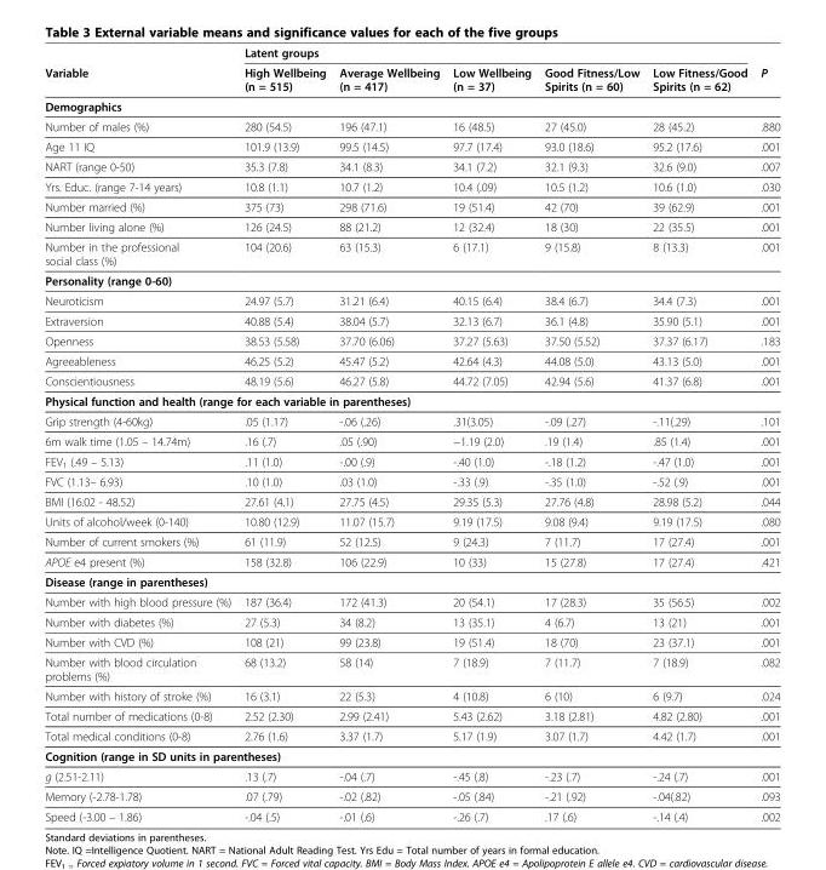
<table><thead><tr><td rowspan="2">Variable</td><td colspan="5">Latent groups</td><td rowspan="2">P</td></tr><tr><td>High Wellbeing (n = 515)</td><td>Average Wellbeing (n = 417)</td><td>Low Wellbeing (n = 37)</td><td>Good Fitness/Low Spirits (n = 60)</td><td>Low Fitness/Good Spirits (n = 62)</td></tr></thead><tbody><tr><td colspan="7">Demographics</td></tr><tr><td>Number of males (%)</td><td>280 (54.5)</td><td>196 (47.1)</td><td>16 (48.5)</td><td>27 (45.0)</td><td>28 (45.2)</td><td>.880</td></tr><tr><td>Age 11 IQ</td><td>101.9 (13.9)</td><td>99.5 (14.5)</td><td>97.7 (17.4)</td><td>93.0 (18.6)</td><td>95.2 (17.6)</td><td>.001</td></tr><tr><td>NART (range 0-50)</td><td>35.3 (7.8)</td><td>34.1 (8.3)</td><td>34.1 (7.2)</td><td>32.1 (9.3)</td><td>32.6 (9.0)</td><td>.007</td></tr><tr><td>Yrs. Educ. (range 7-14 years)</td><td>10.8 (1.1)</td><td>10.7 (1.2)</td><td>10.4 (.09)</td><td>10.5 (1.2)</td><td>10.6 (1.0)</td><td>.030</td></tr><tr><td>Number married (%)</td><td>375 (73)</td><td>298 (71.6)</td><td>19 (51.4)</td><td>42 (70)</td><td>39 (62.9)</td><td>.001</td></tr><tr><td>Number living alone (%)</td><td>126 (24.5)</td><td>88 (21.2)</td><td>12 (32.4)</td><td>18 (30)</td><td>22 (35.5)</td><td>.001</td></tr><tr><td>Number in the professional social class (%)</td><td>104 (20.6)</td><td>63 (15.3)</td><td>6 (17.1)</td><td>9 (15.8)</td><td>8 (13.3)</td><td>.001</td></tr><tr><td colspan="7">Personality (range 0-60)</td></tr><tr><td>Neuroticism</td><td>24.97 (5.7)</td><td>31.21 (6.4)</td><td>40.15 (6.4)</td><td>38.4 (6.7)</td><td>34.4 (7.3)</td><td>.001</td></tr><tr><td>Extraversion</td><td>40.88 (5.4)</td><td>38.04 (5.7)</td><td>32.13 (6.7)</td><td>36.1 (4.8)</td><td>35.90 (5.1)</td><td>.001</td></tr><tr><td>Openness</td><td>38.53 (5.58)</td><td>37.70 (6.06)</td><td>37.27 (5.63)</td><td>37.50 (5.52)</td><td>37.37 (6.17)</td><td>.183</td></tr><tr><td>Agreeableness</td><td>46.25 (5.2)</td><td>45.47 (5.2)</td><td>42.64 (4.3)</td><td>44.08 (5.0)</td><td>43.13 (5.0)</td><td>.001</td></tr><tr><td>Conscientiousness</td><td>48.19 (5.6)</td><td>46.27 (5.8)</td><td>44.72 (7.05)</td><td>42.94 (5.6)</td><td>41.37 (6.8)</td><td>.001</td></tr><tr><td colspan="7">Physical function and health (range for each variable in parentheses)</td></tr><tr><td>Grip strength (4-60kg)</td><td>.05 (1.17)</td><td>-.06 (.26)</td><td>.31(3.05)</td><td>-.09 (.27)</td><td>-.11(.29)</td><td>.101</td></tr><tr><td>6m walk time (1.05 – 14.74m)</td><td>.16 (.7)</td><td>.05 (.90)</td><td>−1.19 (2.0)</td><td>.19 (1.4)</td><td>.85 (1.4)</td><td>.001</td></tr><tr><td>FEV<sub>1</sub> (.49 – 5.13)</td><td>.11 (1.0)</td><td>-.00 (.9)</td><td>-.40 (1.0)</td><td>-.18 (1.2)</td><td>-.47 (1.0)</td><td>.001</td></tr><tr><td>FVC (1.13– 6.93)</td><td>.10 (1.0)</td><td>.03 (1.0)</td><td>-.33 (.9)</td><td>-.35 (1.0)</td><td>-.52 (.9)</td><td>.001</td></tr><tr><td>BMI (16.02 - 48.52)</td><td>27.61 (4.1)</td><td>27.75 (4.5)</td><td>29.35 (5.3)</td><td>27.76 (4.8)</td><td>28.98 (5.2)</td><td>.044</td></tr><tr><td>Units of alcohol/week (0-140)</td><td>10.80 (12.9)</td><td>11.07 (15.7)</td><td>9.19 (17.5)</td><td>9.08 (9.4)</td><td>9.19 (17.5)</td><td>.080</td></tr><tr><td>Number of current smokers (%)</td><td>61 (11.9)</td><td>52 (12.5)</td><td>9 (24.3)</td><td>7 (11.7)</td><td>17 (27.4)</td><td>.001</td></tr><tr><td>APOE e4 present (%)</td><td>158 (32.8)</td><td>106 (22.9)</td><td>10 (33)</td><td>15 (27.8)</td><td>17 (27.4)</td><td>.421</td></tr><tr><td colspan="7">Disease (range in parentheses)</td></tr><tr><td>Number with high blood pressure (%)</td><td>187 (36.4)</td><td>172 (41.3)</td><td>20 (54.1)</td><td>17 (28.3)</td><td>35 (56.5)</td><td>.002</td></tr><tr><td>Number with diabetes (%)</td><td>27 (5.3)</td><td>34 (8.2)</td><td>13 (35.1)</td><td>4 (6.7)</td><td>13 (21)</td><td>.001</td></tr><tr><td>Number with CVD (%)</td><td>108 (21)</td><td>99 (23.8)</td><td>19 (51.4)</td><td>18 (70)</td><td>23 (37.1)</td><td>.001</td></tr><tr><td>Number with blood circulation problems (%)</td><td>68 (13.2)</td><td>58 (14)</td><td>7 (18.9)</td><td>7 (11.7)</td><td>7 (18.9)</td><td>.082</td></tr><tr><td>Number with history of stroke (%)</td><td>16 (3.1)</td><td>22 (5.3)</td><td>4 (10.8)</td><td>6 (10)</td><td>6 (9.7)</td><td>.024</td></tr><tr><td>Total number of medications (0-8)</td><td>2.52 (2.30)</td><td>2.99 (2.41)</td><td>5.43 (2.62)</td><td>3.18 (2.81)</td><td>4.82 (2.80)</td><td>.001</td></tr><tr><td>Total medical conditions (0-8)</td><td>2.76 (1.6)</td><td>3.37 (1.7)</td><td>5.17 (1.9)</td><td>3.07 (1.7)</td><td>4.42 (1.7)</td><td>.001</td></tr><tr><td colspan="7">Cognition (range in SD units in parentheses)</td></tr><tr><td>g (2.51-2.11)</td><td>.13 (.7)</td><td>-.04 (.7)</td><td>-.45 (.8)</td><td>-.23 (.7)</td><td>-.24 (.7)</td><td>.001</td></tr><tr><td>Memory (-2.78-1.78)</td><td>.07 (.79)</td><td>-.02 (.82)</td><td>-.05 (.84)</td><td>-.21 (.92)</td><td>-.04(.82)</td><td>.093</td></tr><tr><td>Speed (-3.00 – 1.86)</td><td>-.04 (.5)</td><td>-.01 (.6)</td><td>-.26 (.7)</td><td>.17 (.6)</td><td>-.14 (.4)</td><td>.002</td></tr></tbody></table>